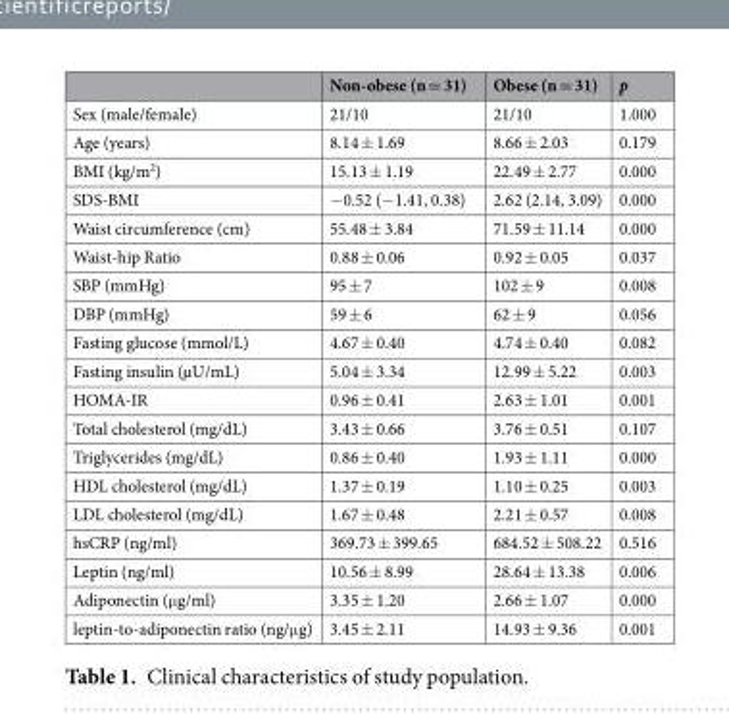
<table><thead><tr><td></td><td>Non-obese (n = 31)</td><td>Obese (n = 31)</td><td>p</td></tr></thead><tbody><tr><td>Sex (male/female)</td><td>21/10</td><td>21/10</td><td>1.000</td></tr><tr><td>Age (years)</td><td>8.14 ± 1.69</td><td>8.66 ± 2.03</td><td>0.179</td></tr><tr><td>BMI (kg/m<sup>2</sup>)</td><td>15.13 ± 1.19</td><td>22.49 ± 2.77</td><td>0.000</td></tr><tr><td>SDS-BMI</td><td>−0.52 (−1.41, 0.38)</td><td>2.62 (2.14, 3.09)</td><td>0.000</td></tr><tr><td>Waist circumference (cm)</td><td>55.48 ± 3.84</td><td>71.59 ± 11.14</td><td>0.000</td></tr><tr><td>Waist-hip Ratio</td><td>0.88 ± 0.06</td><td>0.92 ± 0.05</td><td>0.037</td></tr><tr><td>SBP (mmHg)</td><td>95 ± 7</td><td>102 ± 9</td><td>0.008</td></tr><tr><td>DBP (mmHg)</td><td>59 ± 6</td><td>62 ± 9</td><td>0.056</td></tr><tr><td>Fasting glucose (mmol/L)</td><td>4.67 ± 0.40</td><td>4.74 ± 0.40</td><td>0.082</td></tr><tr><td>Fasting insulin (µU/mL)</td><td>5.04 ± 3.34</td><td>12.99 ± 5.22</td><td>0.003</td></tr><tr><td>HOMA-IR</td><td>0.96 ± 0.41</td><td>2.63 ± 1.01</td><td>0.001</td></tr><tr><td>Total cholesterol (mg/dL)</td><td>3.43 ± 0.66</td><td>3.76 ± 0.51</td><td>0.107</td></tr><tr><td>Triglycerides (mg/dL)</td><td>0.86 ± 0.40</td><td>1.93 ± 1.11</td><td>0.000</td></tr><tr><td>HDL cholesterol (mg/dL)</td><td>1.37 ± 0.19</td><td>1.10 ± 0.25</td><td>0.003</td></tr><tr><td>LDL cholesterol (mg/dL)</td><td>1.67 ± 0.48</td><td>2.21 ± 0.57</td><td>0.008</td></tr><tr><td>hsCRP (ng/ml)</td><td>369.73 ± 399.65</td><td>684.52 ± 508.22</td><td>0.516</td></tr><tr><td>Leptin (ng/ml)</td><td>10.56 ± 8.99</td><td>28.64 ± 13.38</td><td>0.006</td></tr><tr><td>Adiponectin (μg/ml)</td><td>3.35 ± 1.20</td><td>2.66 ± 1.07</td><td>0.000</td></tr><tr><td>leptin-to-adiponectin ratio (ng/μg)</td><td>3.45 ± 2.11</td><td>14.93 ± 9.36</td><td>0.001</td></tr></tbody></table>